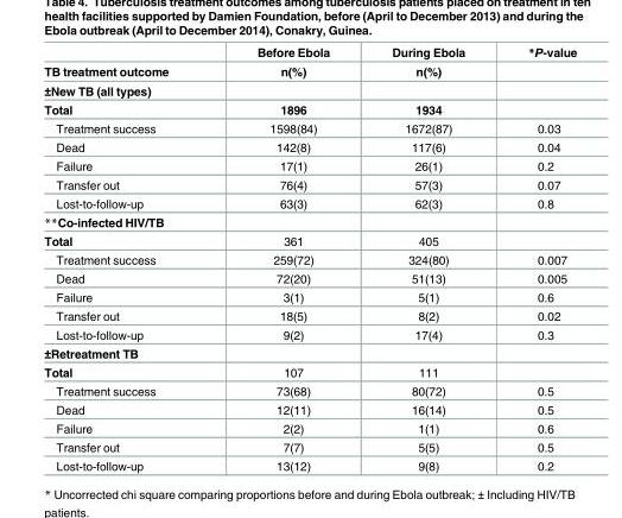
<table><thead><tr><td rowspan="2">TB treatment outcome</td><td rowspan="2">Before Ebola n(%)</td><td rowspan="2">During Ebola n(%)</td><td rowspan="2">*P-value</td></tr><tr></tr></thead><tbody><tr><td colspan="4">±New TB (all types)</td></tr><tr><td>Total</td><td>1896</td><td>1934</td><td></td></tr><tr><td>Treatment success</td><td>1598(84)</td><td>1672(87)</td><td>0.03</td></tr><tr><td>Dead</td><td>142(8)</td><td>117(6)</td><td>0.04</td></tr><tr><td>Failure</td><td>17(1)</td><td>26(1)</td><td>0.2</td></tr><tr><td>Transfer out</td><td>76(4)</td><td>57(3)</td><td>0.07</td></tr><tr><td>Lost-to-follow-up</td><td>63(3)</td><td>62(3)</td><td>0.8</td></tr><tr><td colspan="4">**Co-infected HIV/TB</td></tr><tr><td>Total</td><td>361</td><td>405</td><td></td></tr><tr><td>Treatment success</td><td>259(72)</td><td>324(80)</td><td>0.007</td></tr><tr><td>Dead</td><td>72(20)</td><td>51(13)</td><td>0.005</td></tr><tr><td>Failure</td><td>3(1)</td><td>5(1)</td><td>0.6</td></tr><tr><td>Transfer out</td><td>18(5)</td><td>8(2)</td><td>0.02</td></tr><tr><td>Lost-to-follow-up</td><td>9(2)</td><td>17(4)</td><td>0.3</td></tr><tr><td colspan="4">±Retreatment TB</td></tr><tr><td>Total</td><td>107</td><td>111</td><td></td></tr><tr><td>Treatment success</td><td>73(68)</td><td>80(72)</td><td>0.5</td></tr><tr><td>Dead</td><td>12(11)</td><td>16(14)</td><td>0.5</td></tr><tr><td>Failure</td><td>2(2)</td><td>1(1)</td><td>0.6</td></tr><tr><td>Transfer out</td><td>7(7)</td><td>5(5)</td><td>0.5</td></tr><tr><td>Lost-to-follow-up</td><td>13(12)</td><td>9(8)</td><td>0.2</td></tr></tbody></table>